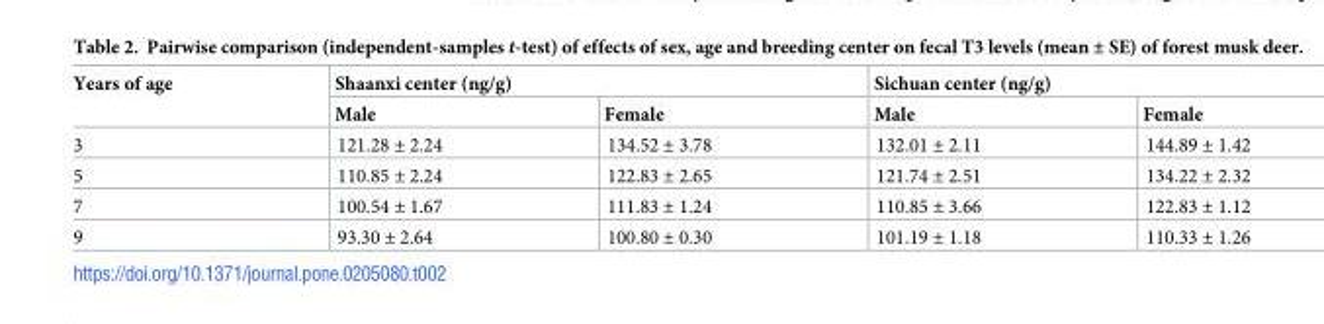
<table><thead><tr><td rowspan="2">Years of age</td><td colspan="2">Shaanxi center (ng/g)</td><td colspan="2">Sichuan center (ng/g)</td></tr><tr><td>Male</td><td>Female</td><td>Male</td><td>Female</td></tr></thead><tbody><tr><td>3</td><td>121.28 ± 2.24</td><td>134.52 ± 3.78</td><td>132.01 ± 2.11</td><td>144.89 ± 1.42</td></tr><tr><td>5</td><td>110.85 ± 2.24</td><td>122.83 ± 2.65</td><td>121.74 ± 2.51</td><td>134.22 ± 2.32</td></tr><tr><td>7</td><td>100.54 ± 1.67</td><td>111.83 ± 1.24</td><td>110.85 ± 3.66</td><td>122.83 ± 1.12</td></tr><tr><td>9</td><td>93.30 ± 2.64</td><td>100.80 ± 0.30</td><td>101.19 ± 1.18</td><td>110.33 ± 1.26</td></tr></tbody></table>